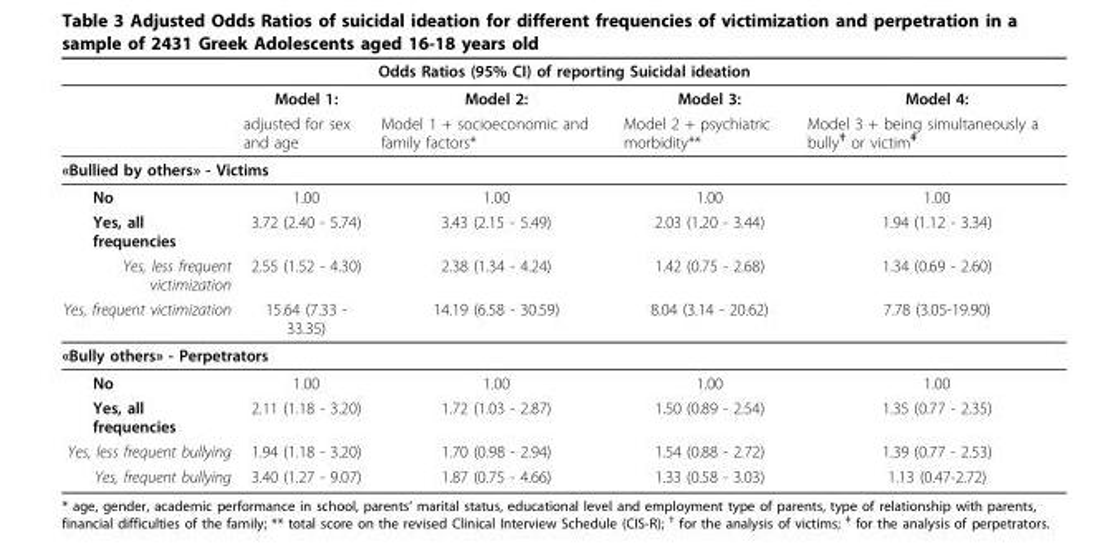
<table><thead><tr><td colspan="5">Odds Ratios (95% CI) of reporting Suicidal ideation</td></tr><tr><td></td><td>Model 1:</td><td>Model 2:</td><td>Model 3:</td><td>Model 4:</td></tr></thead><tbody><tr><td></td><td>adjusted for sex and age</td><td>Model 1 + socioeconomic and family factors*</td><td>Model 2 + psychiatric morbidity**</td><td>Model 3 + being simultaneously a bully<sup>†</sup> or victim<sup>‡</sup></td></tr><tr><td colspan="5">«Bullied by others» - Victims</td></tr><tr><td>No</td><td>1.00</td><td>1.00</td><td>1.00</td><td>1.00</td></tr><tr><td>Yes, all frequencies</td><td>3.72 (2.40 - 5.74)</td><td>3.43 (2.15 - 5.49)</td><td>2.03 (1.20 - 3.44)</td><td>1.94 (1.12 - 3.34)</td></tr><tr><td>Yes, less frequent victimization</td><td>2.55 (1.52 - 4.30)</td><td>2.38 (1.34 - 4.24)</td><td>1.42 (0.75 - 2.68)</td><td>1.34 (0.69 - 2.60)</td></tr><tr><td>Yes, frequent victimization</td><td>15.64 (7.33 - 33.35)</td><td>14.19 (6.58 - 30.59)</td><td>8.04 (3.14 - 20.62)</td><td>7.78 (3.05-19.90)</td></tr><tr><td colspan="5">«Bully others» - Perpetrators</td></tr><tr><td>No</td><td>1.00</td><td>1.00</td><td>1.00</td><td>1.00</td></tr><tr><td>Yes, all frequencies</td><td>2.11 (1.18 - 3.20)</td><td>1.72 (1.03 - 2.87)</td><td>1.50 (0.89 - 2.54)</td><td>1.35 (0.77 - 2.35)</td></tr><tr><td>Yes, less frequent bullying</td><td>1.94 (1.18 - 3.20)</td><td>1.70 (0.98 - 2.94)</td><td>1.54 (0.88 - 2.72)</td><td>1.39 (0.77 - 2.53)</td></tr><tr><td>Yes, frequent bullying</td><td>3.40 (1.27 - 9.07)</td><td>1.87 (0.75 - 4.66)</td><td>1.33 (0.58 - 3.03)</td><td>1.13 (0.47-2.72)</td></tr></tbody></table>